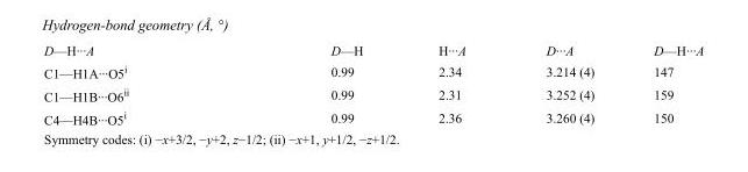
<table><tbody><tr><td>D—H···A</td><td>D—H</td><td>H···A</td><td>D···A</td><td>D—H···A</td></tr><tr><td>C1—H1A···O5<sup>i</sup></td><td>0.99</td><td>2.34</td><td>3.214 (4)</td><td>147</td></tr><tr><td>C1—H1B···O6<sup>ii</sup></td><td>0.99</td><td>2.31</td><td>3.252 (4)</td><td>159</td></tr><tr><td>C4—H4B···O5<sup>i</sup></td><td>0.99</td><td>2.36</td><td>3.260 (4)</td><td>150</td></tr></tbody></table>